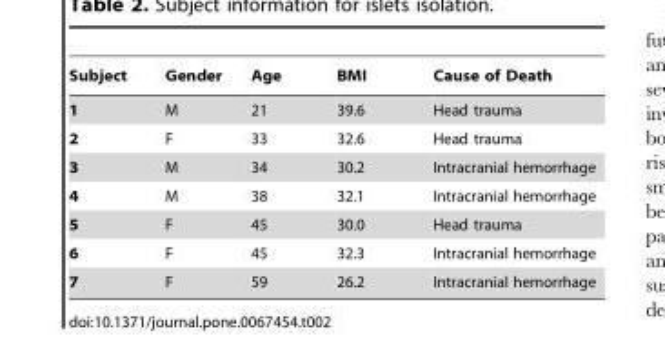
<table><thead><tr><td>Subject</td><td>Gender</td><td>Age</td><td>BMI</td><td>Cause of Death</td></tr></thead><tbody><tr><td>1</td><td>M</td><td>21</td><td>39.6</td><td>Head trauma</td></tr><tr><td>2</td><td>F</td><td>33</td><td>32.6</td><td>Head trauma</td></tr><tr><td>3</td><td>M</td><td>34</td><td>30.2</td><td>Intracranial hemorrhage</td></tr><tr><td>4</td><td>M</td><td>38</td><td>32.1</td><td>Intracranial hemorrhage</td></tr><tr><td>5</td><td>F</td><td>45</td><td>30.0</td><td>Head trauma</td></tr><tr><td>6</td><td>F</td><td>45</td><td>32.3</td><td>Intracranial hemorrhage</td></tr><tr><td>7</td><td>F</td><td>59</td><td>26.2</td><td>Intracranial hemorrhage</td></tr></tbody></table>